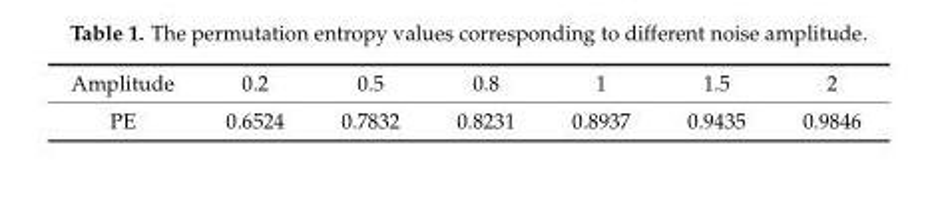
<table><tbody><tr><td>Amplitude</td><td>0.2</td><td>0.5</td><td>0.8</td><td>1</td><td>1.5</td><td>2</td></tr><tr><td>PE</td><td>0.6524</td><td>0.7832</td><td>0.8231</td><td>0.8937</td><td>0.9435</td><td>0.9846</td></tr></tbody></table>